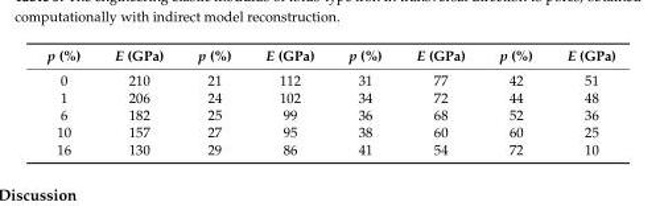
<table><thead><tr><td>p (%)</td><td>E (GPa)</td><td>p (%)</td><td>E (GPa)</td><td>p (%)</td><td>E (GPa)</td><td>p (%)</td><td>E (GPa)</td></tr></thead><tbody><tr><td>0</td><td>210</td><td>21</td><td>112</td><td>31</td><td>77</td><td>42</td><td>51</td></tr><tr><td>1</td><td>206</td><td>24</td><td>102</td><td>34</td><td>72</td><td>44</td><td>48</td></tr><tr><td>6</td><td>182</td><td>25</td><td>99</td><td>36</td><td>68</td><td>52</td><td>36</td></tr><tr><td>10</td><td>157</td><td>27</td><td>95</td><td>38</td><td>60</td><td>60</td><td>25</td></tr><tr><td>16</td><td>130</td><td>29</td><td>86</td><td>41</td><td>54</td><td>72</td><td>10</td></tr></tbody></table>